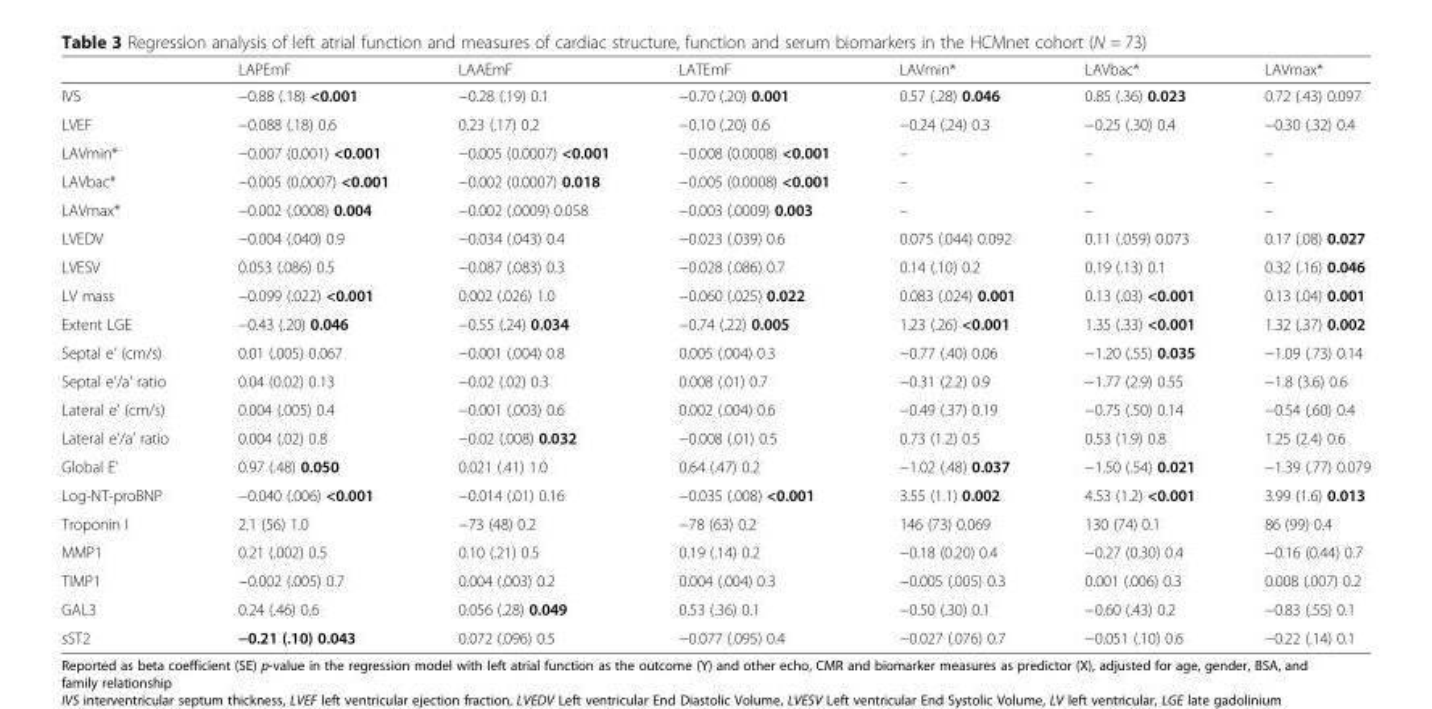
<table><thead><tr><td></td><td>LAPEmF</td><td>LAAEmF</td><td>LATEmF</td><td>LAVmin*</td><td>LAVbac*</td><td>LAVmax*</td></tr></thead><tbody><tr><td>IVS</td><td>−0.88 (.18) &lt;0.001</td><td>−0.28 (.19) 0.1</td><td>−0.70 (.20) 0.001</td><td>0.57 (.28) 0.046</td><td>0.85 (.36) 0.023</td><td>0.72 (.43) 0.097</td></tr><tr><td>LVEF</td><td>−0.088 (.18) 0.6</td><td>0.23 (.17) 0.2</td><td>−0.10 (.20) 0.6</td><td>−0.24 (.24) 0.3</td><td>−0.25 (.30) 0.4</td><td>−0.30 (.32) 0.4</td></tr><tr><td>LAVmin*</td><td>−0.007 (0.001) &lt;0.001</td><td>−0.005 (0.0007) &lt;0.001</td><td>−0.008 (0.0008) &lt;0.001</td><td>–</td><td>–</td><td>–</td></tr><tr><td>LAVbac*</td><td>−0.005 (0.0007) &lt;0.001</td><td>−0.002 (0.0007) 0.018</td><td>−0.005 (0.0008) &lt;0.001</td><td>–</td><td>–</td><td>–</td></tr><tr><td>LAVmax*</td><td>−0.002 (.0008) 0.004</td><td>−0.002 (.0009) 0.058</td><td>−0.003 (.0009) 0.003</td><td>–</td><td>–</td><td>–</td></tr><tr><td>LVEDV</td><td>−0.004 (.040) 0.9</td><td>−0.034 (.043) 0.4</td><td>−0.023 (.039) 0.6</td><td>0.075 (.044) 0.092</td><td>0.11 (.059) 0.073</td><td>0.17 (.08) 0.027</td></tr><tr><td>LVESV</td><td>0.053 (.086) 0.5</td><td>−0.087 (.083) 0.3</td><td>−0.028 (.086) 0.7</td><td>0.14 (.10) 0.2</td><td>0.19 (.13) 0.1</td><td>0.32 (.16) 0.046</td></tr><tr><td>LV mass</td><td>−0.099 (.022) &lt;0.001</td><td>0.002 (.026) 1.0</td><td>−0.060 (.025) 0.022</td><td>0.083 (.024) 0.001</td><td>0.13 (.03) &lt;0.001</td><td>0.13 (.04) 0.001</td></tr><tr><td>Extent LGE</td><td>−0.43 (.20) 0.046</td><td>−0.55 (.24) 0.034</td><td>−0.74 (.22) 0.005</td><td>1.23 (.26) &lt;0.001</td><td>1.35 (.33) &lt;0.001</td><td>1.32 (.37) 0.002</td></tr><tr><td>Septal e’ (cm/s)</td><td>0.01 (.005) 0.067</td><td>−0.001 (.004) 0.8</td><td>0.005 (.004) 0.3</td><td>−0.77 (.40) 0.06</td><td>−1.20 (.55) 0.035</td><td>−1.09 (.73) 0.14</td></tr><tr><td>Septal e’/a’ ratio</td><td>0.04 (0.02) 0.13</td><td>−0.02 (.02) 0.3</td><td>0.008 (.01) 0.7</td><td>−0.31 (2.2) 0.9</td><td>−1.77 (2.9) 0.55</td><td>−1.8 (3.6) 0.6</td></tr><tr><td>Lateral e’ (cm/s)</td><td>0.004 (.005) 0.4</td><td>−0.001 (.003) 0.6</td><td>0.002 (.004) 0.6</td><td>−0.49 (.37) 0.19</td><td>−0.75 (.50) 0.14</td><td>−0.54 (.60) 0.4</td></tr><tr><td>Lateral e’/a’ ratio</td><td>0.004 (.02) 0.8</td><td>−0.02 (.008) 0.032</td><td>−0.008 (.01) 0.5</td><td>0.73 (1.2) 0.5</td><td>0.53 (1.9) 0.8</td><td>1.25 (2.4) 0.6</td></tr><tr><td>Global E’</td><td>0.97 (.48) 0.050</td><td>0.021 (.41) 1.0</td><td>0.64 (.47) 0.2</td><td>−1.02 (.48) 0.037</td><td>−1.50 (.54) 0.021</td><td>−1.39 (.77) 0.079</td></tr><tr><td>Log-NT-proBNP</td><td>−0.040 (.006) &lt;0.001</td><td>−0.014 (.01) 0.16</td><td>−0.035 (.008) &lt;0.001</td><td>3.55 (1.1) 0.002</td><td>4.53 (1.2) &lt;0.001</td><td>3.99 (1.6) 0.013</td></tr><tr><td>Troponin I</td><td>2.1 (56) 1.0</td><td>−73 (48) 0.2</td><td>−78 (63) 0.2</td><td>146 (73) 0.069</td><td>130 (74) 0.1</td><td>86 (99) 0.4</td></tr><tr><td>MMP1</td><td>0.21 (.002) 0.5</td><td>0.10 (.21) 0.5</td><td>0.19 (.14) 0.2</td><td>−0.18 (0.20) 0.4</td><td>−0.27 (0.30) 0.4</td><td>−0.16 (0.44) 0.7</td></tr><tr><td>TIMP1</td><td>−0.002 (.005) 0.7</td><td>0.004 (.003) 0.2</td><td>0.004 (.004) 0.3</td><td>−0.005 (.005) 0.3</td><td>0.001 (.006) 0.3</td><td>0.008 (.007) 0.2</td></tr><tr><td>GAL3</td><td>0.24 (.46) 0.6</td><td>0.056 (.28) 0.049</td><td>0.53 (.36) 0.1</td><td>−0.50 (.30) 0.1</td><td>−0.60 (.43) 0.2</td><td>−0.83 (.55) 0.1</td></tr><tr><td>sST2</td><td>−0.21 (.10) 0.043</td><td>0.072 (.096) 0.5</td><td>−0.077 (.095) 0.4</td><td>−0.027 (.076) 0.7</td><td>−0.051 (.10) 0.6</td><td>−0.22 (.14) 0.1</td></tr></tbody></table>